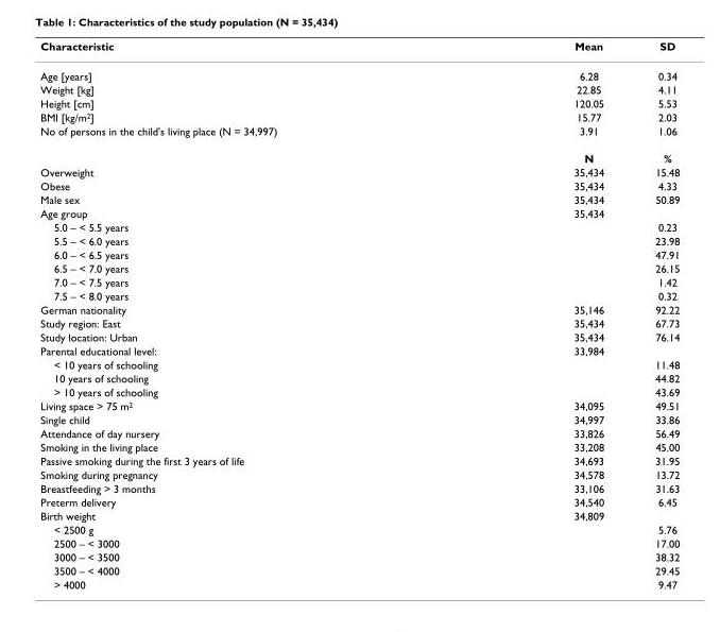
<table><thead><tr><td>Characteristic</td><td>Mean</td><td>SD</td></tr></thead><tbody><tr><td>Age [years]</td><td>6.28</td><td>0.34</td></tr><tr><td>Weight [kg]</td><td>22.85</td><td>4.11</td></tr><tr><td>Height [cm]</td><td>120.05</td><td>5.53</td></tr><tr><td>BMI [kg/m<sup>2</sup>]</td><td>15.77</td><td>2.03</td></tr><tr><td rowspan="2">No of persons in the child&#x27;s living place (N = 34,997)</td><td>3.91</td><td>1.06</td></tr><tr><td>N</td><td>%</td></tr><tr><td>Overweight</td><td>35,434</td><td>15.48</td></tr><tr><td>Obese</td><td>35,434</td><td>4.33</td></tr><tr><td>Male sex</td><td>35,434</td><td>50.89</td></tr><tr><td>Age group</td><td>35,434</td><td></td></tr><tr><td>5.0 – &lt; 5.5 years</td><td></td><td>0.23</td></tr><tr><td>5.5 – &lt; 6.0 years</td><td></td><td>23.98</td></tr><tr><td>6.0 – &lt; 6.5 years</td><td></td><td>47.91</td></tr><tr><td>6.5 – &lt; 7.0 years</td><td></td><td>26.15</td></tr><tr><td>7.0 – &lt; 7.5 years</td><td></td><td>1.42</td></tr><tr><td>7.5 – &lt; 8.0 years</td><td></td><td>0.32</td></tr><tr><td>German nationality</td><td>35,146</td><td>92.22</td></tr><tr><td>Study region: East</td><td>35,434</td><td>67.73</td></tr><tr><td>Study location: Urban</td><td>35,434</td><td>76.14</td></tr><tr><td>Parental educational level:</td><td>33,984</td><td></td></tr><tr><td>&lt; 10 years of schooling</td><td></td><td>11.48</td></tr><tr><td>10 years of schooling</td><td></td><td>44.82</td></tr><tr><td>&gt; 10 years of schooling</td><td></td><td>43.69</td></tr><tr><td>Living space &gt; 75 m<sup>2</sup></td><td>34,095</td><td>49.51</td></tr><tr><td>Single child</td><td>34,997</td><td>33.86</td></tr><tr><td>Attendance of day nursery</td><td>33,826</td><td>56.49</td></tr><tr><td>Smoking in the living place</td><td>33,208</td><td>45.00</td></tr><tr><td>Passive smoking during the first 3 years of life</td><td>34,693</td><td>31.95</td></tr><tr><td>Smoking during pregnancy</td><td>34,578</td><td>13.72</td></tr><tr><td>Breastfeeding &gt; 3 months</td><td>33,106</td><td>31.63</td></tr><tr><td>Preterm delivery</td><td>34,540</td><td>6.45</td></tr><tr><td>Birth weight</td><td>34,809</td><td></td></tr><tr><td>&lt; 2500 g</td><td></td><td>5.76</td></tr><tr><td>2500 – &lt; 3000</td><td></td><td>17.00</td></tr><tr><td>3000 – &lt; 3500</td><td></td><td>38.32</td></tr><tr><td>3500 – &lt; 4000</td><td></td><td>29.45</td></tr><tr><td>&gt; 4000</td><td></td><td>9.47</td></tr></tbody></table>